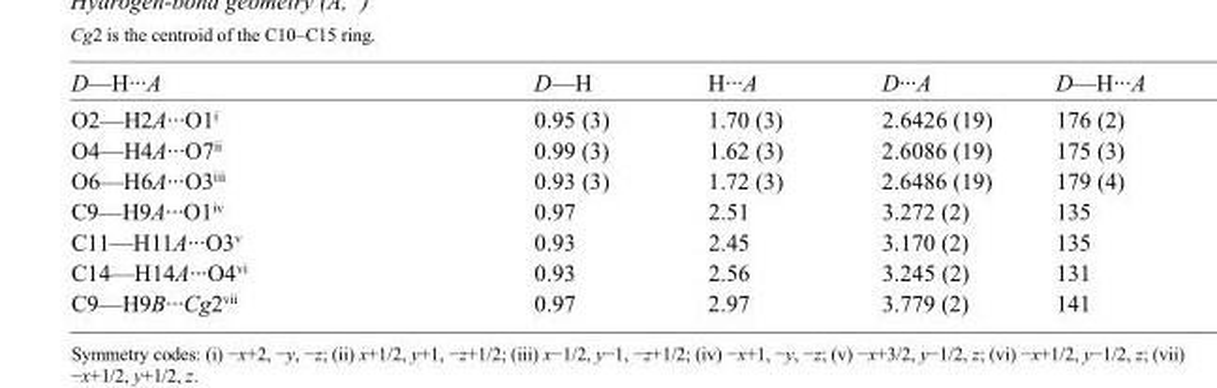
<table><tbody><tr><td>D—H···A</td><td>D—H</td><td>H···A</td><td>D···A</td><td>D—H···A</td></tr><tr><td>O2—H2A···O1<sup>i</sup></td><td>0.95 (3)</td><td>1.70 (3)</td><td>2.6426 (19)</td><td>176 (2)</td></tr><tr><td>O4—H4A···O7<sup>ii</sup></td><td>0.99 (3)</td><td>1.62 (3)</td><td>2.6086 (19)</td><td>175 (3)</td></tr><tr><td>O6—H6A···O3<sup>iii</sup></td><td>0.93 (3)</td><td>1.72 (3)</td><td>2.6486 (19)</td><td>179 (4)</td></tr><tr><td>C9—H9A···O1<sup>iv</sup></td><td>0.97</td><td>2.51</td><td>3.272 (2)</td><td>135</td></tr><tr><td>C11—H11A···O3<sup>v</sup></td><td>0.93</td><td>2.45</td><td>3.170 (2)</td><td>135</td></tr><tr><td>C14—H14A···O4<sup>vi</sup></td><td>0.93</td><td>2.56</td><td>3.245 (2)</td><td>131</td></tr><tr><td>C9—H9B···Cg2<sup>vii</sup></td><td>0.97</td><td>2.97</td><td>3.779 (2)</td><td>141</td></tr></tbody></table>